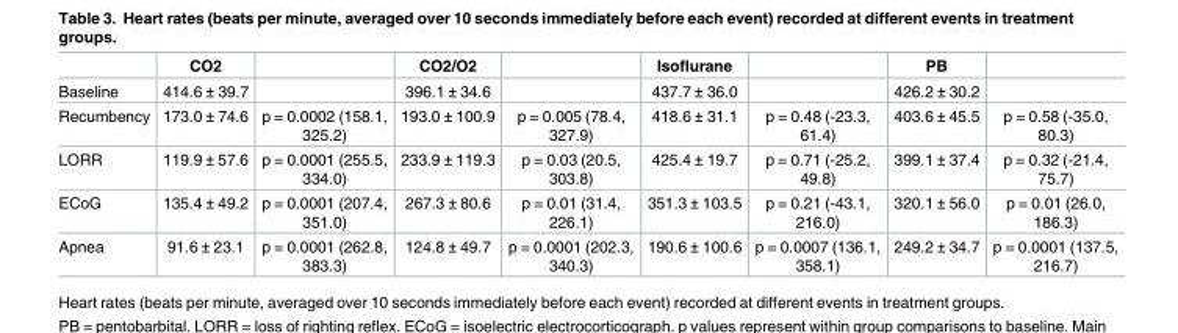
<table><thead><tr><td></td><td>CO2</td><td></td><td>CO2/O2</td><td></td><td>Isoflurane</td><td></td><td>PB</td><td></td></tr></thead><tbody><tr><td>Baseline</td><td>414.6 ± 39.7</td><td></td><td>396.1 ± 34.6</td><td></td><td>437.7 ± 36.0</td><td></td><td>426.2 ± 30.2</td><td></td></tr><tr><td>Recumbency</td><td>173.0 ± 74.6</td><td>p = 0.0002 (158.1, 325.2)</td><td>193.0 ± 100.9</td><td>p = 0.005 (78.4, 327.9)</td><td>418.6 ± 31.1</td><td>p = 0.48 (-23.3, 61.4)</td><td>403.6 ± 45.5</td><td>p = 0.58 (-35.0, 80.3)</td></tr><tr><td>LORR</td><td>119.9 ± 57.6</td><td>p = 0.0001 (255.5, 334.0)</td><td>233.9 ± 119.3</td><td>p = 0.03 (20.5, 303.8)</td><td>425.4 ± 19.7</td><td>p = 0.71 (-25.2, 49.8)</td><td>399.1 ± 37.4</td><td>p = 0.32 (-21.4, 75.7)</td></tr><tr><td>ECoG</td><td>135.4 ± 49.2</td><td>p = 0.0001 (207.4, 351.0)</td><td>267.3 ± 80.6</td><td>p = 0.01 (31.4, 226.1)</td><td>351.3 ± 103.5</td><td>p = 0.21 (-43.1, 216.0)</td><td>320.1 ± 56.0</td><td>p = 0.01 (26.0, 186.3)</td></tr><tr><td>Apnea</td><td>91.6 ± 23.1</td><td>p = 0.0001 (262.8, 383.3)</td><td>124.8 ± 49.7</td><td>p = 0.0001 (202.3, 340.3)</td><td>190.6 ± 100.6</td><td>p = 0.0007 (136.1, 358.1)</td><td>249.2 ± 34.7</td><td>p = 0.0001 (137.5, 216.7)</td></tr></tbody></table>